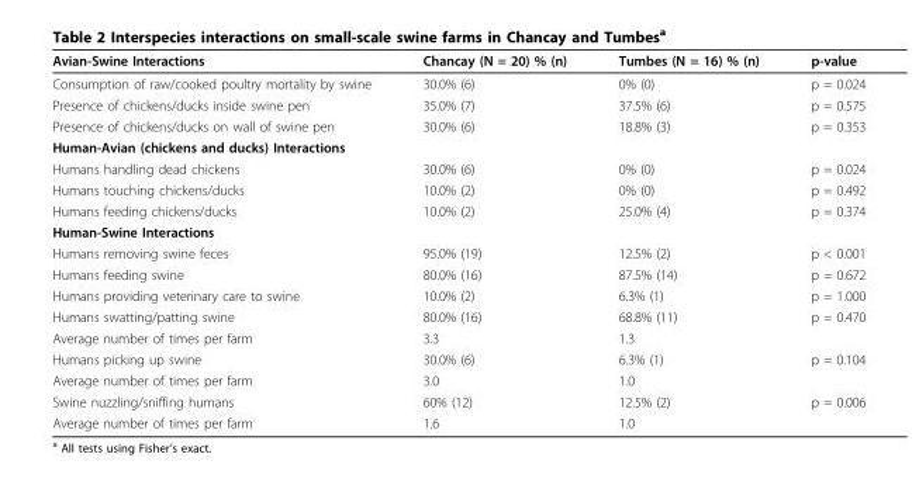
<table><thead><tr><td>Avian-Swine Interactions</td><td>Chancay (N = 20) % (n)</td><td>Tumbes (N = 16) % (n)</td><td>p-value</td></tr></thead><tbody><tr><td>Consumption of raw/cooked poultry mortality by swine</td><td>30.0% (6)</td><td>0% (0)</td><td>p = 0.024</td></tr><tr><td>Presence of chickens/ducks inside swine pen</td><td>35.0% (7)</td><td>37.5% (6)</td><td>p = 0.575</td></tr><tr><td>Presence of chickens/ducks on wall of swine pen</td><td>30.0% (6)</td><td>18.8% (3)</td><td>p = 0.353</td></tr><tr><td colspan="4">Human-Avian (chickens and ducks) Interactions</td></tr><tr><td>Humans handling dead chickens</td><td>30.0% (6)</td><td>0% (0)</td><td>p = 0.024</td></tr><tr><td>Humans touching chickens/ducks</td><td>10.0% (2)</td><td>0% (0)</td><td>p = 0.492</td></tr><tr><td>Humans feeding chickens/ducks</td><td>10.0% (2)</td><td>25.0% (4)</td><td>p = 0.374</td></tr><tr><td colspan="4">Human-Swine Interactions</td></tr><tr><td>Humans removing swine feces</td><td>95.0% (19)</td><td>12.5% (2)</td><td>p &lt; 0.001</td></tr><tr><td>Humans feeding swine</td><td>80.0% (16)</td><td>87.5% (14)</td><td>p = 0.672</td></tr><tr><td>Humans providing veterinary care to swine</td><td>10.0% (2)</td><td>6.3% (1)</td><td>p = 1.000</td></tr><tr><td>Humans swatting/patting swine</td><td>80.0% (16)</td><td>68.8% (11)</td><td>p = 0.470</td></tr><tr><td>Average number of times per farm</td><td>3.3</td><td>1.3</td><td></td></tr><tr><td>Humans picking up swine</td><td>30.0% (6)</td><td>6.3% (1)</td><td>p = 0.104</td></tr><tr><td>Average number of times per farm</td><td>3.0</td><td>1.0</td><td></td></tr><tr><td>Swine nuzzling/sniffing humans</td><td>60% (12)</td><td>12.5% (2)</td><td>p = 0.006</td></tr><tr><td>Average number of times per farm</td><td>1.6</td><td>1.0</td><td></td></tr></tbody></table>